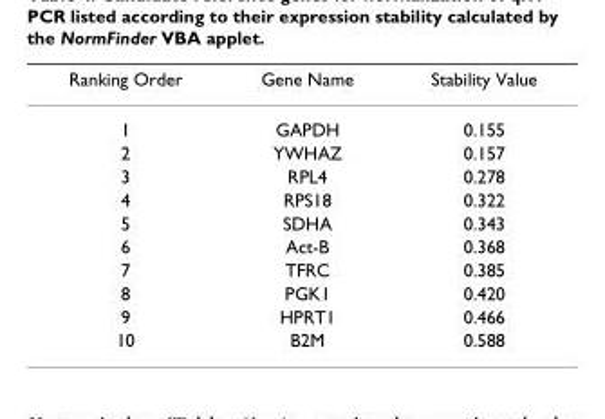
<table><thead><tr><td>Ranking Order</td><td>Gene Name</td><td>Stability Value</td></tr></thead><tbody><tr><td>1</td><td>GAPDH</td><td>0.155</td></tr><tr><td>2</td><td>YWHAZ</td><td>0.157</td></tr><tr><td>3</td><td>RPL4</td><td>0.278</td></tr><tr><td>4</td><td>RPS18</td><td>0.322</td></tr><tr><td>5</td><td>SDHA</td><td>0.343</td></tr><tr><td>6</td><td>Act-B</td><td>0.368</td></tr><tr><td>7</td><td>TFRC</td><td>0.385</td></tr><tr><td>8</td><td>PGK1</td><td>0.420</td></tr><tr><td>9</td><td>HPRT1</td><td>0.466</td></tr><tr><td>10</td><td>B2M</td><td>0.588</td></tr></tbody></table>